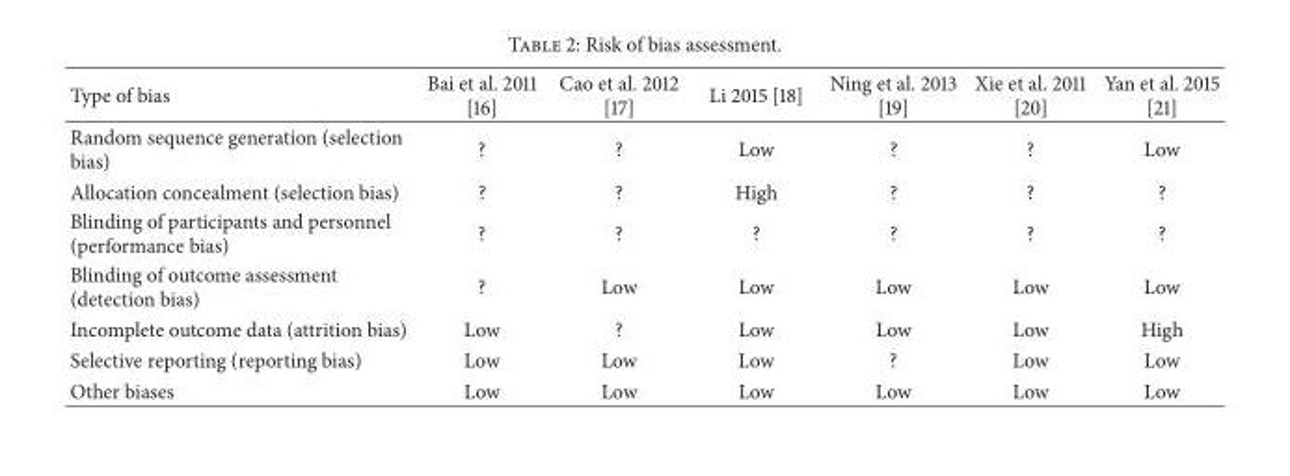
<table><thead><tr><td>Type of bias</td><td>Bai et al. 2011 [16]</td><td>Cao et al. 2012 [17]</td><td>Li 2015 [18]</td><td>Ning et al. 2013 [19]</td><td>Xie et al. 2011 [20]</td><td>Yan et al. 2015 [21]</td></tr></thead><tbody><tr><td>Random sequence generation (selection bias)</td><td>?</td><td>?</td><td>Low</td><td>?</td><td>?</td><td>Low</td></tr><tr><td>Allocation concealment (selection bias)</td><td>?</td><td>?</td><td>High</td><td>?</td><td>?</td><td>?</td></tr><tr><td>Blinding of participants and personnel (performance bias)</td><td>?</td><td>?</td><td>?</td><td>?</td><td>?</td><td>?</td></tr><tr><td>Blinding of outcome assessment (detection bias)</td><td>?</td><td>Low</td><td>Low</td><td>Low</td><td>Low</td><td>Low</td></tr><tr><td>Incomplete outcome data (attrition bias)</td><td>Low</td><td>?</td><td>Low</td><td>Low</td><td>Low</td><td>High</td></tr><tr><td>Selective reporting (reporting bias)</td><td>Low</td><td>Low</td><td>Low</td><td>?</td><td>Low</td><td>Low</td></tr><tr><td>Other biases</td><td>Low</td><td>Low</td><td>Low</td><td>Low</td><td>Low</td><td>Low</td></tr></tbody></table>